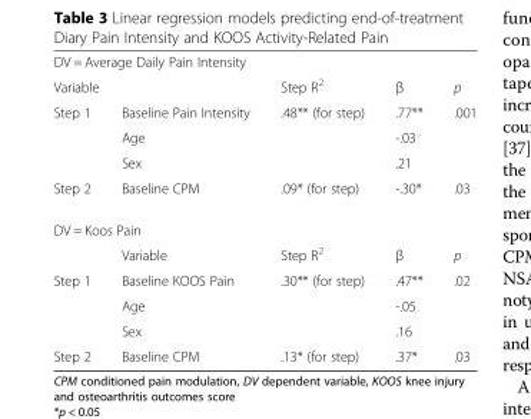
<table><tbody><tr><td colspan="5">DV = Average Daily Pain Intensity</td></tr><tr><td colspan="2">Variable</td><td>Step R<sup>2</sup></td><td>β</td><td>p</td></tr><tr><td rowspan="3">Step 1</td><td>Baseline Pain Intensity</td><td>.48** (for step)</td><td>.77**</td><td rowspan="3">.001</td></tr><tr><td>Age</td><td></td><td>-.03</td></tr><tr><td>Sex</td><td></td><td>.21</td></tr><tr><td>Step 2</td><td>Baseline CPM</td><td>.09* (for step)</td><td>-.30*</td><td>.03</td></tr><tr><td colspan="5">DV = Koos Pain</td></tr><tr><td></td><td>Variable</td><td>Step R<sup>2</sup></td><td>β</td><td>p</td></tr><tr><td rowspan="3">Step 1</td><td>Baseline KOOS Pain</td><td>.30** (for step)</td><td>.47**</td><td rowspan="3">.02</td></tr><tr><td>Age</td><td></td><td>-.05</td></tr><tr><td>Sex</td><td></td><td>.16</td></tr><tr><td>Step 2</td><td>Baseline CPM</td><td>.13* (for step)</td><td>.37*</td><td>.03</td></tr></tbody></table>